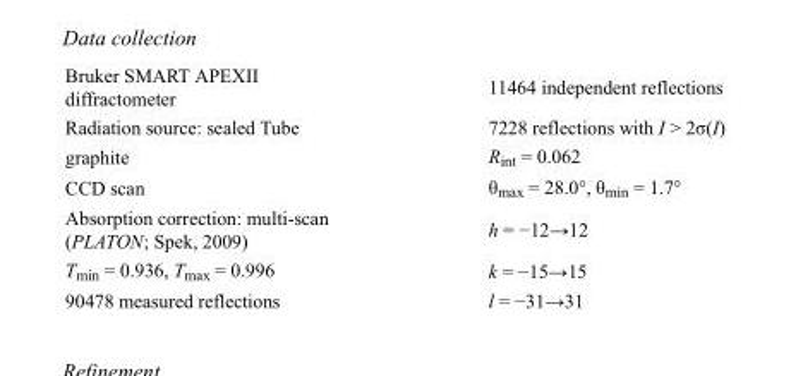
<table><tbody><tr><td>Bruker SMART APEXII diffractometer</td><td>11464 independent reflections</td></tr><tr><td>Radiation source: sealed Tube</td><td>7228 reflections with I &gt; 2σ(I)</td></tr><tr><td>graphite</td><td>R<sub>int</sub> = 0.062</td></tr><tr><td>CCD scan</td><td>θ<sub>max</sub> = 28.0°, θ<sub>min</sub> = 1.7°</td></tr><tr><td>Absorption correction: multi-scan (PLATON; Spek, 2009)</td><td>h = −12→12</td></tr><tr><td>T<sub>min</sub> = 0.936, T<sub>max</sub> = 0.996</td><td>k = −15→15</td></tr><tr><td>90478 measured reflections</td><td>l = −31→31</td></tr></tbody></table>